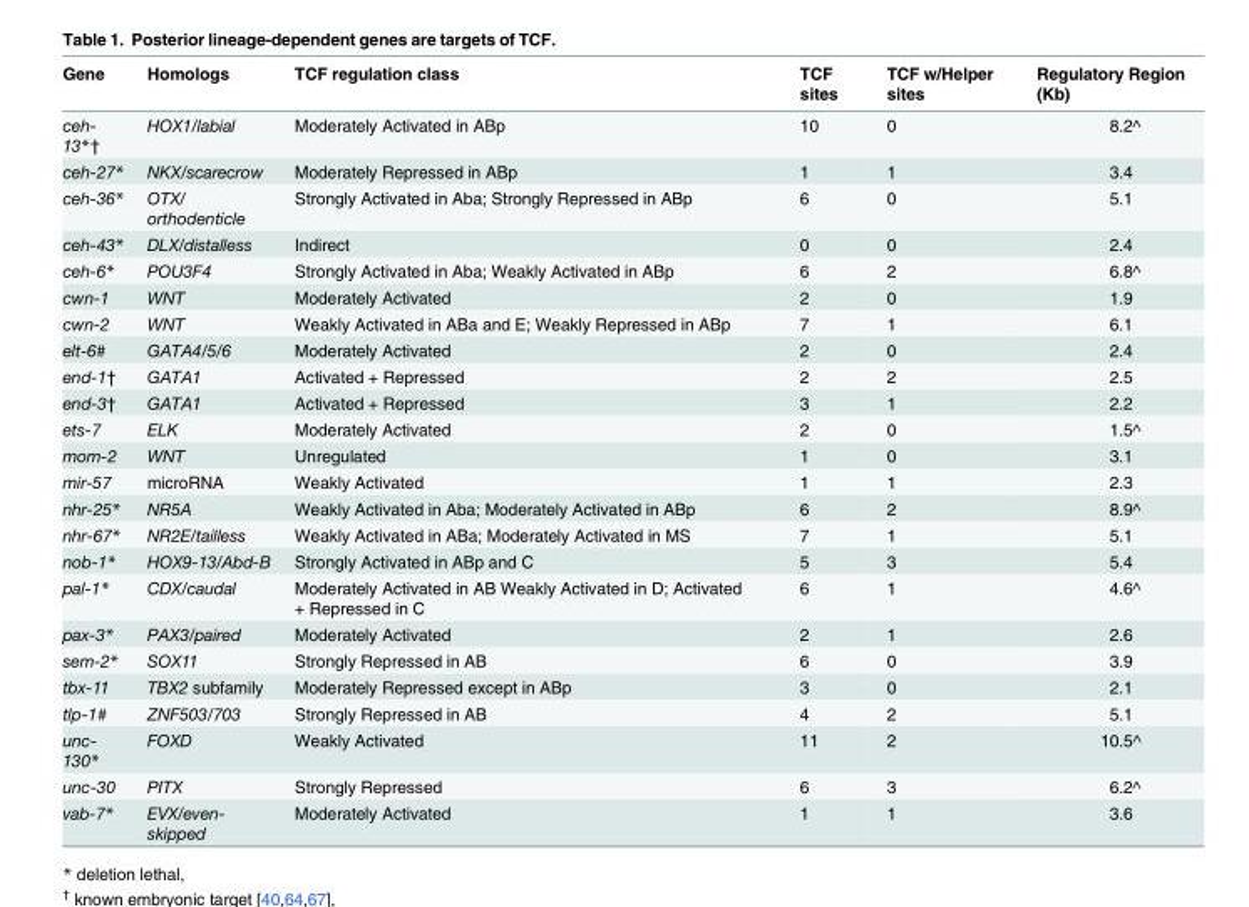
<table><thead><tr><td>Gene</td><td>Homologs</td><td>TCF regulation class</td><td>TCF sites</td><td>TCF w/Helper sites</td><td>Regulatory Region (Kb)</td></tr></thead><tbody><tr><td>ceh- 13*†</td><td>HOX1/labial</td><td>Moderately Activated in ABp</td><td>10</td><td>0</td><td>8.2^</td></tr><tr><td>ceh-27*</td><td>NKX/scarecrow</td><td>Moderately Repressed in ABp</td><td>1</td><td>1</td><td>3.4</td></tr><tr><td>ceh-36*</td><td>OTX/ orthodenticle</td><td>Strongly Activated in Aba; Strongly Repressed in ABp</td><td>6</td><td>0</td><td>5.1</td></tr><tr><td>ceh-43*</td><td>DLX/distalless</td><td>Indirect</td><td>0</td><td>0</td><td>2.4</td></tr><tr><td>ceh-6*</td><td>POU3F4</td><td>Strongly Activated in Aba; Weakly Activated in ABp</td><td>6</td><td>2</td><td>6.8^</td></tr><tr><td>cwn-1</td><td>WNT</td><td>Moderately Activated</td><td>2</td><td>0</td><td>1.9</td></tr><tr><td>cwn-2</td><td>WNT</td><td>Weakly Activated in ABa and E; Weakly Repressed in ABp</td><td>7</td><td>1</td><td>6.1</td></tr><tr><td>elt-6#</td><td>GATA4/5/6</td><td>Moderately Activated</td><td>2</td><td>0</td><td>2.4</td></tr><tr><td>end-1†</td><td>GATA1</td><td>Activated + Repressed</td><td>2</td><td>2</td><td>2.5</td></tr><tr><td>end-3†</td><td>GATA1</td><td>Activated + Repressed</td><td>3</td><td>1</td><td>2.2</td></tr><tr><td>ets-7</td><td>ELK</td><td>Moderately Activated</td><td>2</td><td>0</td><td>1.5^</td></tr><tr><td>mom-2</td><td>WNT</td><td>Unregulated</td><td>1</td><td>0</td><td>3.1</td></tr><tr><td>mir-57</td><td>microRNA</td><td>Weakly Activated</td><td>1</td><td>1</td><td>2.3</td></tr><tr><td>nhr-25*</td><td>NR5A</td><td>Weakly Activated in Aba; Moderately Activated in ABp</td><td>6</td><td>2</td><td>8.9^</td></tr><tr><td>nhr-67*</td><td>NR2E/tailless</td><td>Weakly Activated in ABa; Moderately Activated in MS</td><td>7</td><td>1</td><td>5.1</td></tr><tr><td>nob-1*</td><td>HOX9-13/Abd-B</td><td>Strongly Activated in ABp and C</td><td>5</td><td>3</td><td>5.4</td></tr><tr><td>pal-1*</td><td>CDX/caudal</td><td>Moderately Activated in AB Weakly Activated in D; Activated + Repressed in C</td><td>6</td><td>1</td><td>4.6^</td></tr><tr><td>pax-3*</td><td>PAX3/paired</td><td>Moderately Activated</td><td>2</td><td>1</td><td>2.6</td></tr><tr><td>sem-2*</td><td>SOX11</td><td>Strongly Repressed in AB</td><td>6</td><td>0</td><td>3.9</td></tr><tr><td>tbx-11</td><td>TBX2 subfamily</td><td>Moderately Repressed except in ABp</td><td>3</td><td>0</td><td>2.1</td></tr><tr><td>tlp-1#</td><td>ZNF503/703</td><td>Strongly Repressed in AB</td><td>4</td><td>2</td><td>5.1</td></tr><tr><td>unc- 130*</td><td>FOXD</td><td>Weakly Activated</td><td>11</td><td>2</td><td>10.5^</td></tr><tr><td>unc-30</td><td>PITX</td><td>Strongly Repressed</td><td>6</td><td>3</td><td>6.2^</td></tr><tr><td>vab-7*</td><td>EVX/even- skipped</td><td>Moderately Activated</td><td>1</td><td>1</td><td>3.6</td></tr></tbody></table>